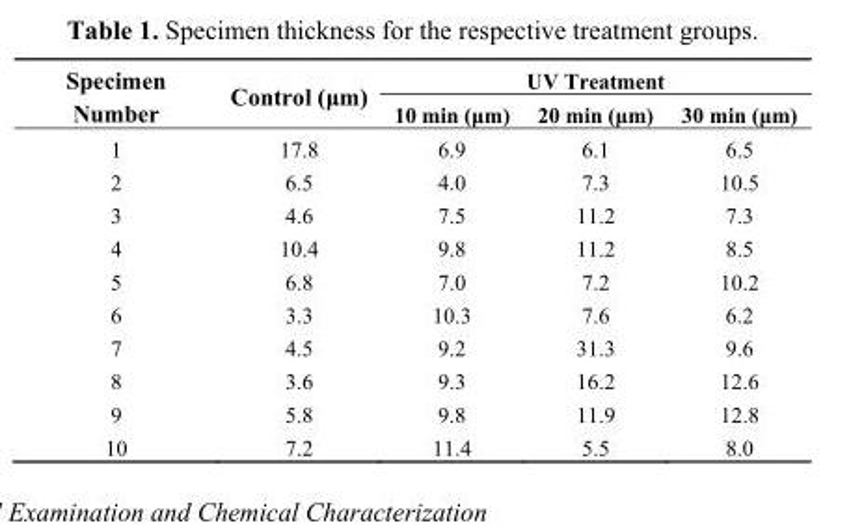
<table><thead><tr><td rowspan="2">Specimen Number</td><td rowspan="2">Control (μm)</td><td colspan="3">UV Treatment</td></tr><tr><td>10 min (μm)</td><td>20 min (μm)</td><td>30 min (μm)</td></tr></thead><tbody><tr><td>1</td><td>17.8</td><td>6.9</td><td>6.1</td><td>6.5</td></tr><tr><td>2</td><td>6.5</td><td>4.0</td><td>7.3</td><td>10.5</td></tr><tr><td>3</td><td>4.6</td><td>7.5</td><td>11.2</td><td>7.3</td></tr><tr><td>4</td><td>10.4</td><td>9.8</td><td>11.2</td><td>8.5</td></tr><tr><td>5</td><td>6.8</td><td>7.0</td><td>7.2</td><td>10.2</td></tr><tr><td>6</td><td>3.3</td><td>10.3</td><td>7.6</td><td>6.2</td></tr><tr><td>7</td><td>4.5</td><td>9.2</td><td>31.3</td><td>9.6</td></tr><tr><td>8</td><td>3.6</td><td>9.3</td><td>16.2</td><td>12.6</td></tr><tr><td>9</td><td>5.8</td><td>9.8</td><td>11.9</td><td>12.8</td></tr><tr><td>10</td><td>7.2</td><td>11.4</td><td>5.5</td><td>8.0</td></tr></tbody></table>